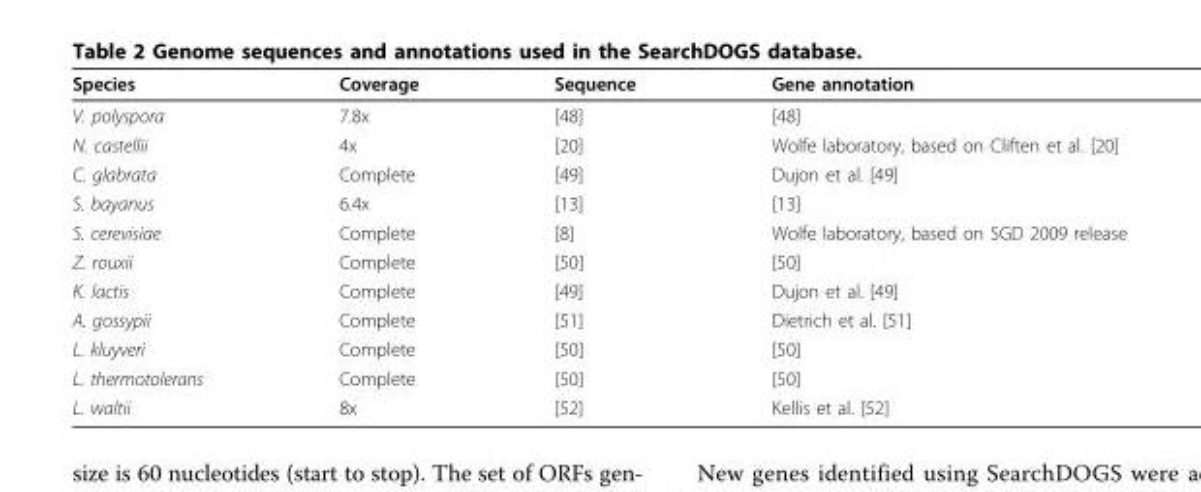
<table><thead><tr><td>Species</td><td>Coverage</td><td>Sequence</td><td>Gene annotation</td></tr></thead><tbody><tr><td>V. polyspora</td><td>7.8x</td><td>[48]</td><td>[48]</td></tr><tr><td>N. castellii</td><td>4x</td><td>[20]</td><td>Wolfe laboratory, based on Cliften et al. [20]</td></tr><tr><td>C. glabrata</td><td>Complete</td><td>[49]</td><td>Dujon et al. [49]</td></tr><tr><td>S. bayanus</td><td>6.4x</td><td>[13]</td><td>[13]</td></tr><tr><td>S. cerevisiae</td><td>Complete</td><td>[8]</td><td>Wolfe laboratory, based on SGD 2009 release</td></tr><tr><td>Z. rouxii</td><td>Complete</td><td>[50]</td><td>[50]</td></tr><tr><td>K. lactis</td><td>Complete</td><td>[49]</td><td>Dujon et al. [49]</td></tr><tr><td>A. gossypii</td><td>Complete</td><td>[51]</td><td>Dietrich et al. [51]</td></tr><tr><td>L. kluyveri</td><td>Complete</td><td>[50]</td><td>[50]</td></tr><tr><td>L. thermotolerans</td><td>Complete</td><td>[50]</td><td>[50]</td></tr><tr><td>L. waltii</td><td>8x</td><td>[52]</td><td>Kellis et al. [52]</td></tr></tbody></table>